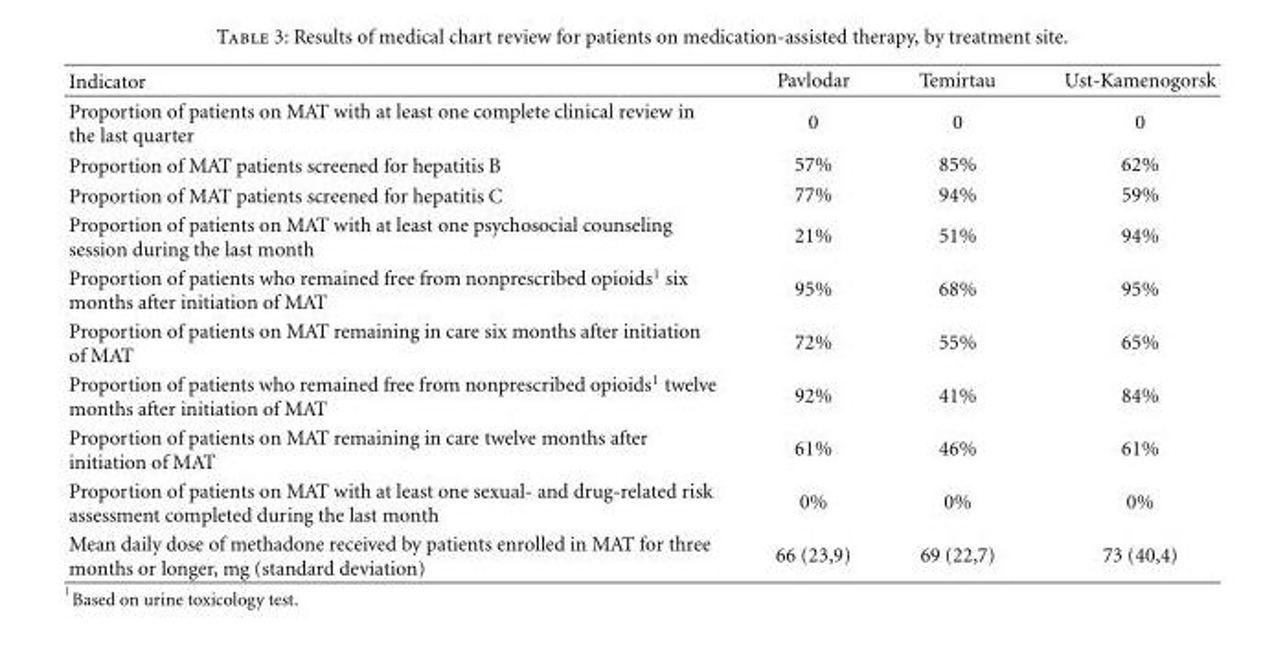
<table><thead><tr><td>Indicator</td><td>Pavlodar</td><td>Temirtau</td><td>Ust-Kamenogorsk</td></tr></thead><tbody><tr><td>Proportion of patients on MAT with at least one complete clinical review in the last quarter</td><td>0</td><td>0</td><td>0</td></tr><tr><td>Proportion of MAT patients screened for hepatitis B</td><td>57%</td><td>85%</td><td>62%</td></tr><tr><td>Proportion of MAT patients screened for hepatitis C</td><td>77%</td><td>94%</td><td>59%</td></tr><tr><td>Proportion of patients on MAT with at least one psychosocial counseling session during the last month</td><td>21%</td><td>51%</td><td>94%</td></tr><tr><td>Proportion of patients who remained free from nonprescribed opioids<sup>1</sup> six months after initiation of MAT</td><td>95%</td><td>68%</td><td>95%</td></tr><tr><td>Proportion of patients on MAT remaining in care six months after initiation of MAT</td><td>72%</td><td>55%</td><td>65%</td></tr><tr><td>Proportion of patients who remained free from nonprescribed opioids<sup>1</sup> twelve months after initiation of MAT</td><td>92%</td><td>41%</td><td>84%</td></tr><tr><td>Proportion of patients on MAT remaining in care twelve months after initiation of MAT</td><td>61%</td><td>46%</td><td>61%</td></tr><tr><td>Proportion of patients on MAT with at least one sexual- and drug-related risk assessment completed during the last month</td><td>0%</td><td>0%</td><td>0%</td></tr><tr><td>Mean daily dose of methadone received by patients enrolled in MAT for three months or longer, mg (standard deviation)</td><td>66 (23,9)</td><td>69 (22,7)</td><td>73 (40,4)</td></tr></tbody></table>